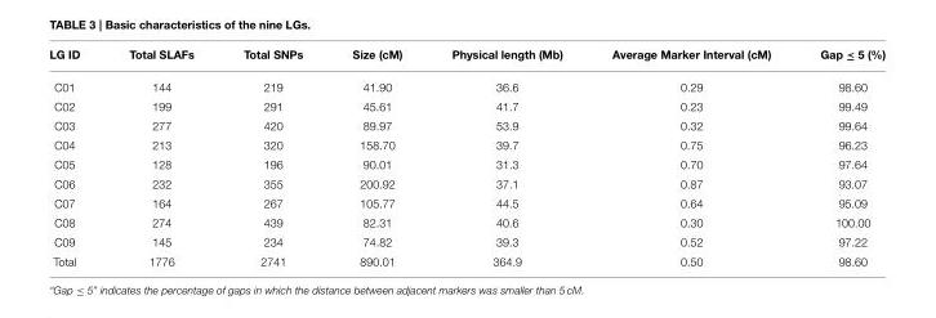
<table><thead><tr><td>LG ID</td><td>Total SLAFs</td><td>Total SNPs</td><td>Size (cM)</td><td>Physical length (Mb)</td><td>Average Marker Interval (cM)</td><td>Gap ≤ 5 (%)</td></tr></thead><tbody><tr><td>C01</td><td>144</td><td>219</td><td>41.90</td><td>36.6</td><td>0.29</td><td>98.60</td></tr><tr><td>C02</td><td>199</td><td>291</td><td>45.61</td><td>41.7</td><td>0.23</td><td>99.49</td></tr><tr><td>C03</td><td>277</td><td>420</td><td>89.97</td><td>53.9</td><td>0.32</td><td>99.64</td></tr><tr><td>C04</td><td>213</td><td>320</td><td>158.70</td><td>39.7</td><td>0.75</td><td>96.23</td></tr><tr><td>C05</td><td>128</td><td>196</td><td>90.01</td><td>31.3</td><td>0.70</td><td>97.64</td></tr><tr><td>C06</td><td>232</td><td>355</td><td>200.92</td><td>37.1</td><td>0.87</td><td>93.07</td></tr><tr><td>C07</td><td>164</td><td>267</td><td>105.77</td><td>44.5</td><td>0.64</td><td>95.09</td></tr><tr><td>C08</td><td>274</td><td>439</td><td>82.31</td><td>40.6</td><td>0.30</td><td>100.00</td></tr><tr><td>C09</td><td>145</td><td>234</td><td>74.82</td><td>39.3</td><td>0.52</td><td>97.22</td></tr><tr><td>Total</td><td>1776</td><td>2741</td><td>890.01</td><td>364.9</td><td>0.50</td><td>98.60</td></tr></tbody></table>